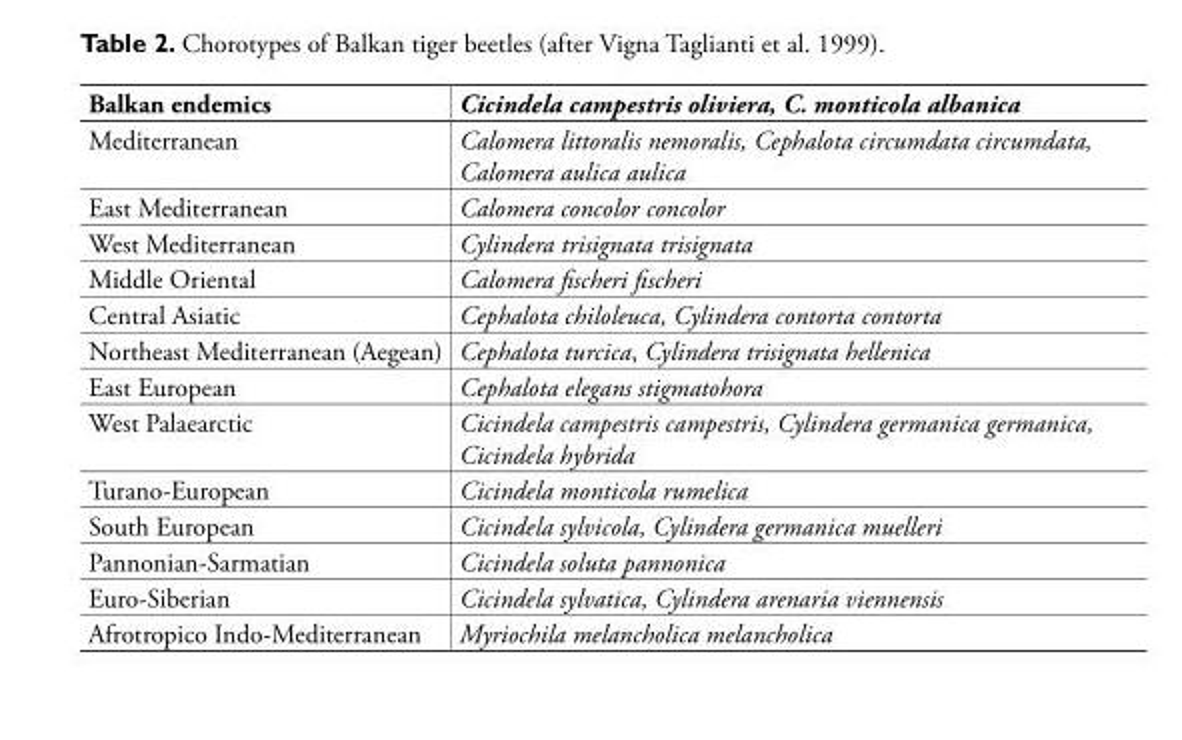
<table><thead><tr><td>Balkan endemics</td><td>Cicindela campestris oliviera, C. monticola albanica</td></tr></thead><tbody><tr><td>Mediterranean</td><td>Calomera littoralis nemoralis, Cephalota circumdata circumdata, Calomera aulica aulica</td></tr><tr><td>East Mediterranean</td><td>Calomera concolor concolor</td></tr><tr><td>West Mediterranean</td><td>Cylindera trisignata trisignata</td></tr><tr><td>Middle Oriental</td><td>Calomera fischeri fischeri</td></tr><tr><td>Central Asiatic</td><td>Cephalota chiloleuca, Cylindera contorta contorta</td></tr><tr><td>Northeast Mediterranean (Aegean)</td><td>Cephalota turcica, Cylindera trisignata hellenica</td></tr><tr><td>East European</td><td>Cephalota elegans stigmatohora</td></tr><tr><td>West Palaearctic</td><td>Cicindela campestris campestris, Cylindera germanica germanica, Cicindela hybrida</td></tr><tr><td>Turano-European</td><td>Cicindela monticola rumelica</td></tr><tr><td>South European</td><td>Cicindela sylvicola, Cylindera germanica muelleri</td></tr><tr><td>Pannonian-Sarmatian</td><td>Cicindela soluta pannonica</td></tr><tr><td>Euro-Siberian</td><td>Cicindela sylvatica, Cylindera arenaria viennensis</td></tr><tr><td>Afrotropico Indo-Mediterranean</td><td>Myriochila melancholica melancholica</td></tr></tbody></table>